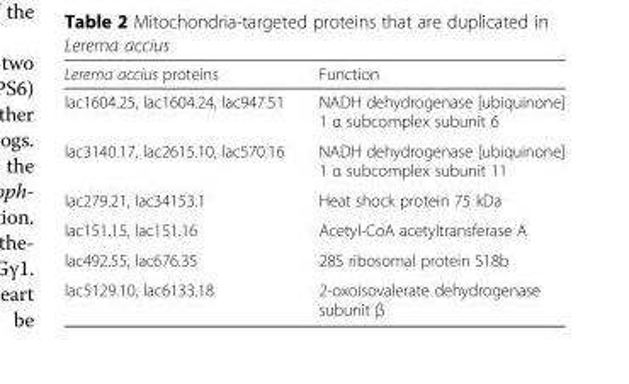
<table><thead><tr><td>Lerema accius proteins</td><td>Function</td></tr></thead><tbody><tr><td>lac1604.25, lac1604.24, lac947.51</td><td>NADH dehydrogenase [ubiquinone] 1 α subcomplex subunit 6</td></tr><tr><td>lac3140.17, lac2615.10, lac570.16</td><td>NADH dehydrogenase [ubiquinone] 1 α subcomplex subunit 11</td></tr><tr><td>lac279.21, lac34153.1</td><td>Heat shock protein 75 kDa</td></tr><tr><td>lac151.15, lac151.16</td><td>Acetyl-CoA acetyltransferase A</td></tr><tr><td>lac492.55, lac676.35</td><td>28S ribosomal protein S18b</td></tr><tr><td>lac5129.10, lac6133.18</td><td>2-oxoisovalerate dehydrogenase subunit β</td></tr></tbody></table>